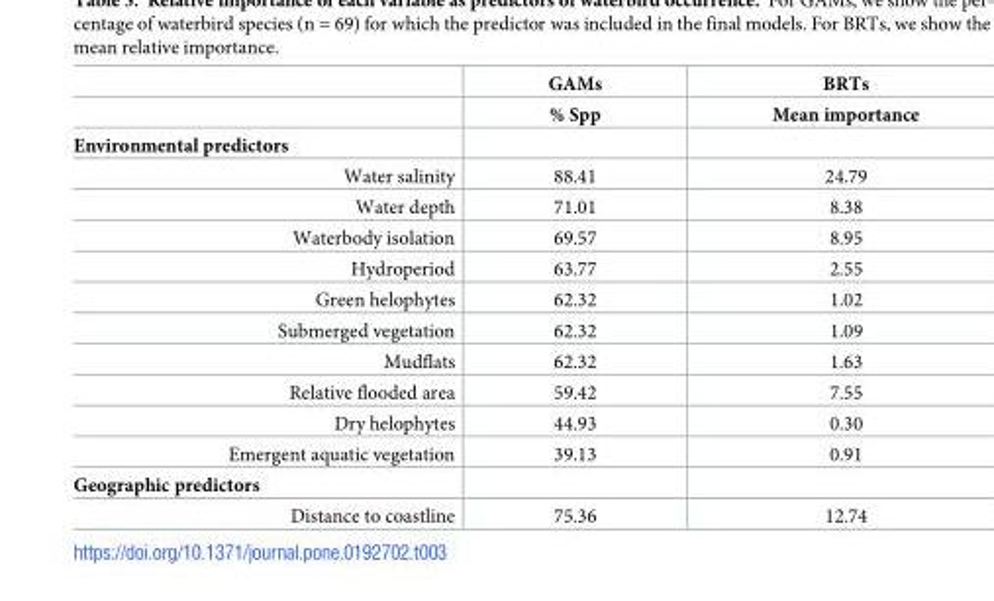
<table><thead><tr><td rowspan="2"></td><td rowspan="2">GAMs % Spp</td><td rowspan="2">BRTs Mean importance</td></tr><tr></tr></thead><tbody><tr><td colspan="3">Environmental predictors</td></tr><tr><td>Water salinity</td><td>88.41</td><td>24.79</td></tr><tr><td>Water depth</td><td>71.01</td><td>8.38</td></tr><tr><td>Waterbody isolation</td><td>69.57</td><td>8.95</td></tr><tr><td>Hydroperiod</td><td>63.77</td><td>2.55</td></tr><tr><td>Green helophytes</td><td>62.32</td><td>1.02</td></tr><tr><td>Submerged vegetation</td><td>62.32</td><td>1.09</td></tr><tr><td>Mudflats</td><td>62.32</td><td>1.63</td></tr><tr><td>Relative flooded area</td><td>59.42</td><td>7.55</td></tr><tr><td>Dry helophytes</td><td>44.93</td><td>0.30</td></tr><tr><td>Emergent aquatic vegetation</td><td>39.13</td><td>0.91</td></tr><tr><td colspan="3">Geographic predictors</td></tr><tr><td>Distance to coastline</td><td>75.36</td><td>12.74</td></tr></tbody></table>